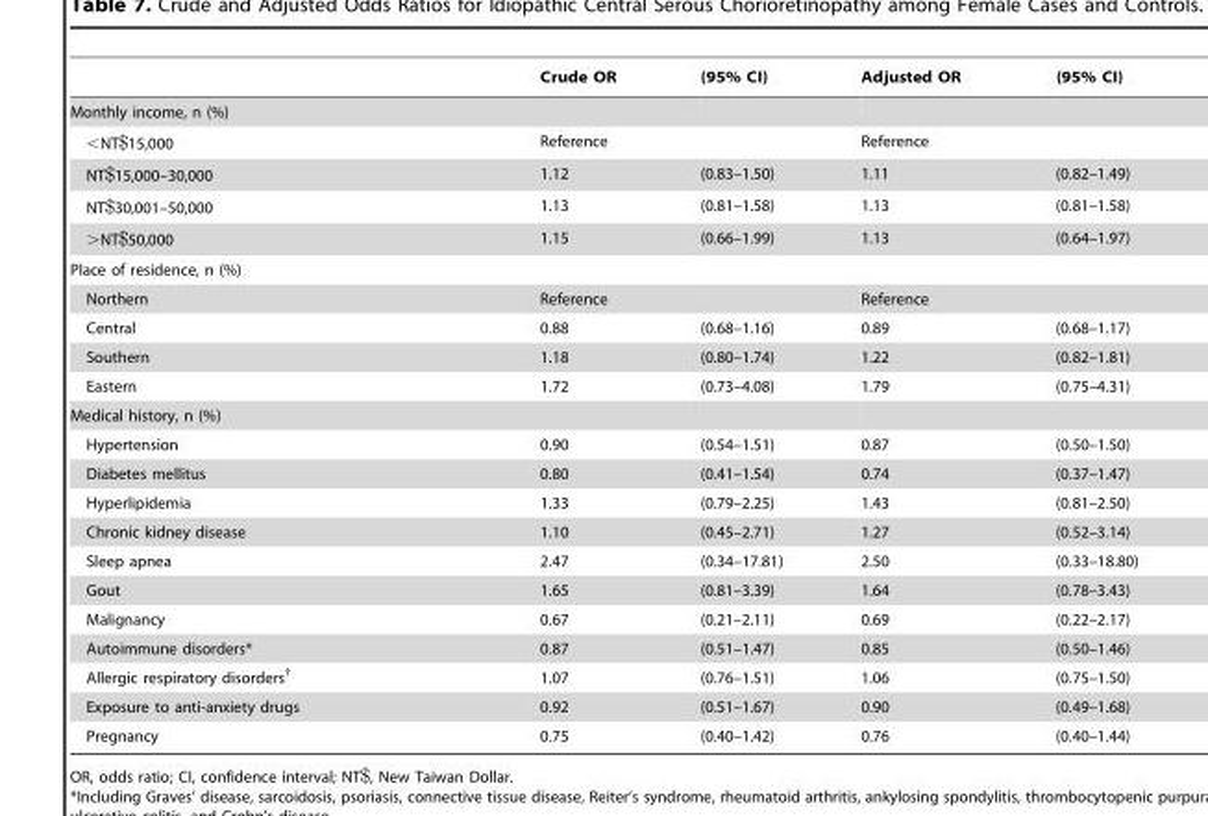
<table><thead><tr><td></td><td>Crude OR</td><td>(95% CI)</td><td>Adjusted OR</td><td>(95% CI)</td></tr></thead><tbody><tr><td colspan="5">Monthly income, n (%)</td></tr><tr><td>&lt;NT$15,000</td><td>Reference</td><td></td><td>Reference</td><td></td></tr><tr><td>NT$15,000–30,000</td><td>1.12</td><td>(0.83–1.50)</td><td>1.11</td><td>(0.82–1.49)</td></tr><tr><td>NT$30,001–50,000</td><td>1.13</td><td>(0.81–1.58)</td><td>1.13</td><td>(0.81–1.58)</td></tr><tr><td>&gt;NT$50,000</td><td>1.15</td><td>(0.66–1.99)</td><td>1.13</td><td>(0.64–1.97)</td></tr><tr><td colspan="5">Place of residence, n (%)</td></tr><tr><td>Northern</td><td>Reference</td><td></td><td>Reference</td><td></td></tr><tr><td>Central</td><td>0.88</td><td>(0.68–1.16)</td><td>0.89</td><td>(0.68–1.17)</td></tr><tr><td>Southern</td><td>1.18</td><td>(0.80–1.74)</td><td>1.22</td><td>(0.82–1.81)</td></tr><tr><td>Eastern</td><td>1.72</td><td>(0.73–4.08)</td><td>1.79</td><td>(0.75–4.31)</td></tr><tr><td colspan="5">Medical history, n (%)</td></tr><tr><td>Hypertension</td><td>0.90</td><td>(0.54–1.51)</td><td>0.87</td><td>(0.50–1.50)</td></tr><tr><td>Diabetes mellitus</td><td>0.80</td><td>(0.41–1.54)</td><td>0.74</td><td>(0.37–1.47)</td></tr><tr><td>Hyperlipidemia</td><td>1.33</td><td>(0.79–2.25)</td><td>1.43</td><td>(0.81–2.50)</td></tr><tr><td>Chronic kidney disease</td><td>1.10</td><td>(0.45–2.71)</td><td>1.27</td><td>(0.52–3.14)</td></tr><tr><td>Sleep apnea</td><td>2.47</td><td>(0.34–17.81)</td><td>2.50</td><td>(0.33–18.80)</td></tr><tr><td>Gout</td><td>1.65</td><td>(0.81–3.39)</td><td>1.64</td><td>(0.78–3.43)</td></tr><tr><td>Malignancy</td><td>0.67</td><td>(0.21–2.11)</td><td>0.69</td><td>(0.22–2.17)</td></tr><tr><td>Autoimmune disorders*</td><td>0.87</td><td>(0.51–1.47)</td><td>0.85</td><td>(0.50–1.46)</td></tr><tr><td>Allergic respiratory disorders†</td><td>1.07</td><td>(0.76–1.51)</td><td>1.06</td><td>(0.75–1.50)</td></tr><tr><td>Exposure to anti-anxiety drugs</td><td>0.92</td><td>(0.51–1.67)</td><td>0.90</td><td>(0.49–1.68)</td></tr><tr><td>Pregnancy</td><td>0.75</td><td>(0.40–1.42)</td><td>0.76</td><td>(0.40–1.44)</td></tr></tbody></table>